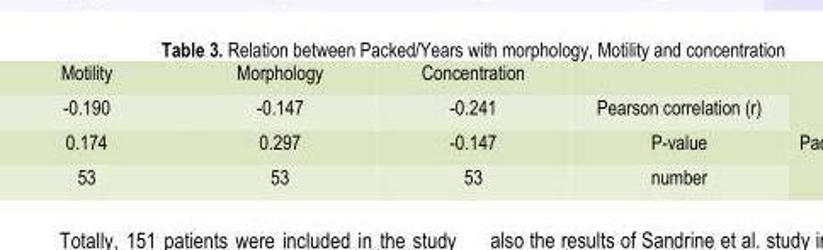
<table><thead><tr><td rowspan="4">Motility -0.190 0.174 53</td><td rowspan="4">Morphology -0.147 0.297 53</td><td rowspan="4">Concentration -0.241 -0.147 53</td><td rowspan="4">Pearson correlation (r) P-value number</td></tr><tr></tr><tr></tr><tr></tr></thead><tbody></tbody></table>